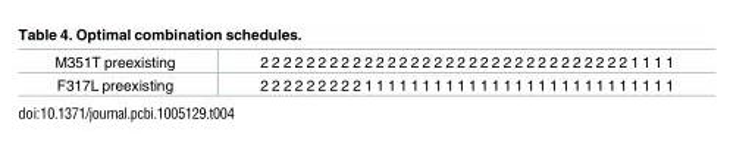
<table><tbody><tr><td>M351T preexisting</td><td>2 2 2 2 2 2 2 2 2 2 2 2 2 2 2 2 2 2 2 2 2 2 2 2 2 2 2 2 2 2 2 2 1 1 1 1</td></tr><tr><td>F317L preexisting</td><td>2 2 2 2 2 2 2 2 2 1 1 1 1 1 1 1 1 1 1 1 1 1 1 1 1 1 1 1 1 1 1 1 1 1 1 1</td></tr></tbody></table>